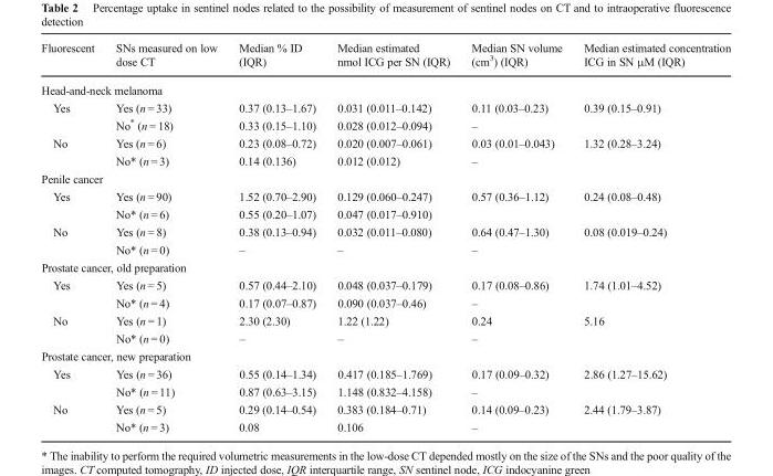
<table><thead><tr><td>Fluorescent</td><td>SNs measured on low dose CT</td><td>Median % ID (IQR)</td><td>Median estimated nmol ICG per SN (IQR)</td><td>Median SN volume (cm<sup>3</sup>) (IQR)</td><td>Median estimated concentration ICG in SN μM (IQR)</td></tr></thead><tbody><tr><td colspan="6">Head-and-neck melanoma</td></tr><tr><td rowspan="2">Yes</td><td>Yes (n = 33)</td><td>0.37 (0.13–1.67)</td><td>0.031 (0.011–0.142)</td><td>0.11 (0.03–0.23)</td><td>0.39 (0.15–0.91)</td></tr><tr><td>No* (n = 18)</td><td>0.33 (0.15–1.10)</td><td>0.028 (0.012–0.094)</td><td>–</td><td></td></tr><tr><td rowspan="2">No</td><td>Yes (n = 6)</td><td>0.23 (0.08–0.72)</td><td>0.020 (0.007–0.061)</td><td>0.03 (0.01–0.043)</td><td>1.32 (0.28–3.24)</td></tr><tr><td>No* (n = 3)</td><td>0.14 (0.136)</td><td>0.012 (0.012)</td><td>–</td><td></td></tr><tr><td colspan="6">Penile cancer</td></tr><tr><td rowspan="2">Yes</td><td>Yes (n = 90)</td><td>1.52 (0.70–2.90)</td><td>0.129 (0.060–0.247)</td><td>0.57 (0.36–1.12)</td><td>0.24 (0.08–0.48)</td></tr><tr><td>No* (n = 6)</td><td>0.55 (0.20–1.07)</td><td>0.047 (0.017–0.910)</td><td></td><td></td></tr><tr><td rowspan="2">No</td><td>Yes (n = 8)</td><td>0.38 (0.13–0.94)</td><td>0.032 (0.011–0.080)</td><td>0.64 (0.47–1.30)</td><td>0.08 (0.019–0.24)</td></tr><tr><td>No* (n = 0)</td><td>–</td><td>–</td><td>–</td><td></td></tr><tr><td colspan="6">Prostate cancer, old preparation</td></tr><tr><td rowspan="2">Yes</td><td>Yes (n = 5)</td><td>0.57 (0.44–2.10)</td><td>0.048 (0.037–0.179)</td><td>0.17 (0.08–0.86)</td><td>1.74 (1.01–4.52)</td></tr><tr><td>No* (n = 4)</td><td>0.17 (0.07–0.87)</td><td>0.090 (0.037–0.46)</td><td>–</td><td></td></tr><tr><td rowspan="2">No</td><td>Yes (n = 1)</td><td>2.30 (2.30)</td><td>1.22 (1.22)</td><td>0.24</td><td>5.16</td></tr><tr><td>No* (n = 0)</td><td>–</td><td>–</td><td>–</td><td></td></tr><tr><td colspan="6">Prostate cancer, new preparation</td></tr><tr><td rowspan="2">Yes</td><td>Yes (n = 36)</td><td>0.55 (0.14–1.34)</td><td>0.417 (0.185–1.769)</td><td>0.17 (0.09–0.32)</td><td>2.86 (1.27–15.62)</td></tr><tr><td>No* (n = 11)</td><td>0.87 (0.63–3.15)</td><td>1.148 (0.832–4.158)</td><td>–</td><td></td></tr><tr><td rowspan="2">No</td><td>Yes (n = 5)</td><td>0.29 (0.14–0.54)</td><td>0.383 (0.184–0.71)</td><td>0.14 (0.09–0.23)</td><td>2.44 (1.79–3.87)</td></tr><tr><td>No* (n = 3)</td><td>0.08</td><td>0.106</td><td>–</td><td></td></tr></tbody></table>